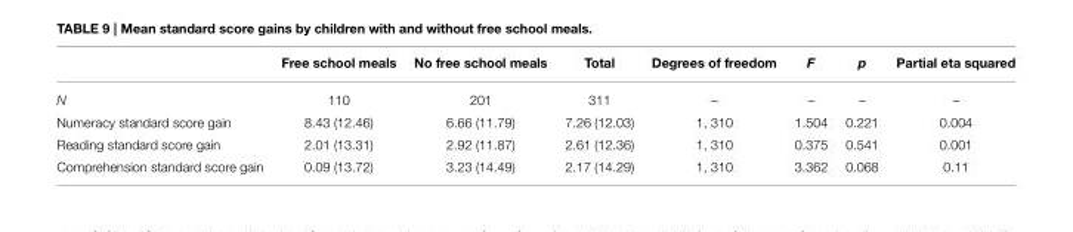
<table><thead><tr><td></td><td>Free school meals</td><td>No free school meals</td><td>Total</td><td>Degrees of freedom</td><td>F</td><td>p</td><td>Partial eta squared</td></tr></thead><tbody><tr><td>N</td><td>110</td><td>201</td><td>311</td><td>–</td><td>–</td><td>–</td><td>–</td></tr><tr><td>Numeracy standard score gain</td><td>8.43 (12.46)</td><td>6.66 (11.79)</td><td>7.26 (12.03)</td><td>1, 310</td><td>1.504</td><td>0.221</td><td>0.004</td></tr><tr><td>Reading standard score gain</td><td>2.01 (13.31)</td><td>2.92 (11.87)</td><td>2.61 (12.36)</td><td>1, 310</td><td>0.375</td><td>0.541</td><td>0.001</td></tr><tr><td>Comprehension standard score gain</td><td>0.09 (13.72)</td><td>3.23 (14.49)</td><td>2.17 (14.29)</td><td>1, 310</td><td>3.362</td><td>0.068</td><td>0.11</td></tr></tbody></table>